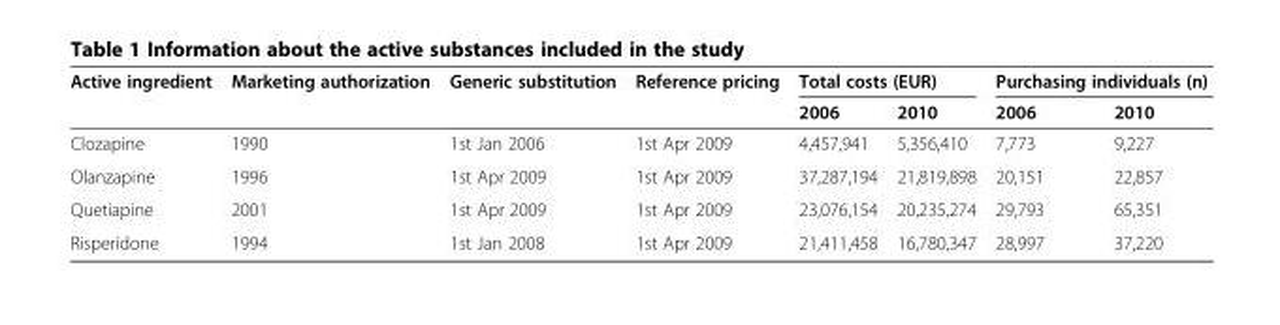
<table><thead><tr><td rowspan="2">Active ingredient</td><td rowspan="2">Marketing authorization</td><td rowspan="2">Generic substitution</td><td rowspan="2">Reference pricing</td><td colspan="2">Total costs (EUR)</td><td colspan="2">Purchasing individuals (n)</td></tr><tr><td>2006</td><td>2010</td><td>2006</td><td>2010</td></tr></thead><tbody><tr><td>Clozapine</td><td>1990</td><td>1st Jan 2006</td><td>1st Apr 2009</td><td>4,457,941</td><td>5,356,410</td><td>7,773</td><td>9,227</td></tr><tr><td>Olanzapine</td><td>1996</td><td>1st Apr 2009</td><td>1st Apr 2009</td><td>37,287,194</td><td>21,819,898</td><td>20,151</td><td>22,857</td></tr><tr><td>Quetiapine</td><td>2001</td><td>1st Apr 2009</td><td>1st Apr 2009</td><td>23,076,154</td><td>20,235,274</td><td>29,793</td><td>65,351</td></tr><tr><td>Risperidone</td><td>1994</td><td>1st Jan 2008</td><td>1st Apr 2009</td><td>21,411,458</td><td>16,780,347</td><td>28,997</td><td>37,220</td></tr></tbody></table>